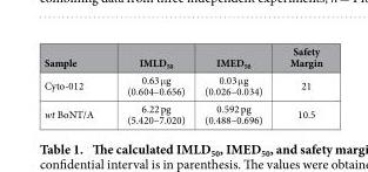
<table><thead><tr><td>Sample</td><td>IMLD<sub>50</sub></td><td>IMED<sub>50</sub></td><td>Safety Margin</td></tr></thead><tbody><tr><td>Cyto-012</td><td>0.63 μ g (0.604–0.656)</td><td>0.03 μ g (0.026–0.034)</td><td>21</td></tr><tr><td>wt BoNT/A</td><td>6.22 pg (5.420–7.020)</td><td>0.592 pg (0.488–0.696)</td><td>10.5</td></tr></tbody></table>